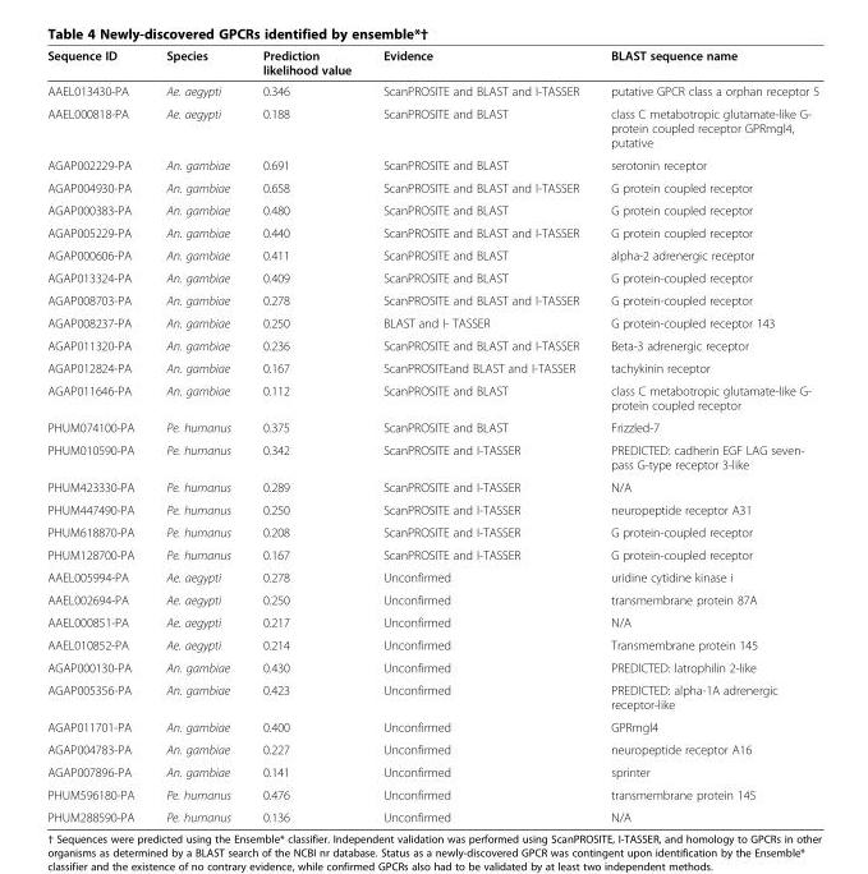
<table><thead><tr><td>Sequence ID</td><td>Species</td><td>Prediction likelihood value</td><td>Evidence</td><td>BLAST sequence name</td></tr></thead><tbody><tr><td>AAEL013430-PA</td><td>Ae. aegypti</td><td>0.346</td><td>ScanPROSITE and BLAST and I-TASSER</td><td>putative GPCR class a orphan receptor 5</td></tr><tr><td>AAEL000818-PA</td><td>Ae. aegypti</td><td>0.188</td><td>ScanPROSITE and BLAST</td><td>class C metabotropic glutamate-like G- protein coupled receptor GPRmgl4, putative</td></tr><tr><td>AGAP002229-PA</td><td>An. gambiae</td><td>0.691</td><td>ScanPROSITE and BLAST</td><td>serotonin receptor</td></tr><tr><td>AGAP004930-PA</td><td>An. gambiae</td><td>0.658</td><td>ScanPROSITE and BLAST and I-TASSER</td><td>G protein coupled receptor</td></tr><tr><td>AGAP000383-PA</td><td>An. gambiae</td><td>0.480</td><td>ScanPROSITE and BLAST</td><td>G protein coupled receptor</td></tr><tr><td>AGAP005229-PA</td><td>An. gambiae</td><td>0.440</td><td>ScanPROSITE and BLAST and I-TASSER</td><td>G protein coupled receptor</td></tr><tr><td>AGAP000606-PA</td><td>An. gambiae</td><td>0.411</td><td>ScanPROSITE and BLAST</td><td>alpha-2 adrenergic receptor</td></tr><tr><td>AGAP013324-PA</td><td>An. gambiae</td><td>0.409</td><td>ScanPROSITE and BLAST</td><td>G protein-coupled receptor</td></tr><tr><td>AGAP008703-PA</td><td>An. gambiae</td><td>0.278</td><td>ScanPROSITE and BLAST and I-TASSER</td><td>G protein-coupled receptor</td></tr><tr><td>AGAP008237-PA</td><td>An. gambiae</td><td>0.250</td><td>BLAST and I- TASSER</td><td>G protein-coupled receptor 143</td></tr><tr><td>AGAP011320-PA</td><td>An. gambiae</td><td>0.236</td><td>ScanPROSITE and BLAST and I-TASSER</td><td>Beta-3 adrenergic receptor</td></tr><tr><td>AGAP012824-PA</td><td>An. gambiae</td><td>0.167</td><td>ScanPROSITEand BLAST and I-TASSER</td><td>tachykinin receptor</td></tr><tr><td>AGAP011646-PA</td><td>An. gambiae</td><td>0.112</td><td>ScanPROSITE and BLAST</td><td>class C metabotropic glutamate-like G- protein coupled receptor</td></tr><tr><td>PHUM074100-PA</td><td>Pe. humanus</td><td>0.375</td><td>ScanPROSITE and BLAST</td><td>Frizzled-7</td></tr><tr><td>PHUM010590-PA</td><td>Pe. humanus</td><td>0.342</td><td>ScanPROSITE and I-TASSER</td><td>PREDICTED: cadherin EGF LAG seven- pass G-type receptor 3-like</td></tr><tr><td>PHUM423330-PA</td><td>Pe. humanus</td><td>0.289</td><td>ScanPROSITE and I-TASSER</td><td>N/A</td></tr><tr><td>PHUM447490-PA</td><td>Pe. humanus</td><td>0.250</td><td>ScanPROSITE and I-TASSER</td><td>neuropeptide receptor A31</td></tr><tr><td>PHUM618870-PA</td><td>Pe. humanus</td><td>0.208</td><td>ScanPROSITE and I-TASSER</td><td>G protein-coupled receptor</td></tr><tr><td>PHUM128700-PA</td><td>Pe. humanus</td><td>0.167</td><td>ScanPROSITE and I-TASSER</td><td>G protein-coupled receptor</td></tr><tr><td>AAEL005994-PA</td><td>Ae. aegypti</td><td>0.278</td><td>Unconfirmed</td><td>uridine cytidine kinase i</td></tr><tr><td>AAEL002694-PA</td><td>Ae. aegypti</td><td>0.250</td><td>Unconfirmed</td><td>transmembrane protein 87A</td></tr><tr><td>AAEL000851-PA</td><td>Ae. aegypti</td><td>0.217</td><td>Unconfirmed</td><td>N/A</td></tr><tr><td>AAEL010852-PA</td><td>Ae. aegypti</td><td>0.214</td><td>Unconfirmed</td><td>Transmembrane protein 145</td></tr><tr><td>AGAP000130-PA</td><td>An. gambiae</td><td>0.430</td><td>Unconfirmed</td><td>PREDICTED: latrophilin 2-like</td></tr><tr><td>AGAP005356-PA</td><td>An. gambiae</td><td>0.423</td><td>Unconfirmed</td><td>PREDICTED: alpha-1A adrenergic receptor-like</td></tr><tr><td>AGAP011701-PA</td><td>An. gambiae</td><td>0.400</td><td>Unconfirmed</td><td>GPRmgl4</td></tr><tr><td>AGAP004783-PA</td><td>An. gambiae</td><td>0.227</td><td>Unconfirmed</td><td>neuropeptide receptor A16</td></tr><tr><td>AGAP007896-PA</td><td>An. gambiae</td><td>0.141</td><td>Unconfirmed</td><td>sprinter</td></tr><tr><td>PHUM596180-PA</td><td>Pe. humanus</td><td>0.476</td><td>Unconfirmed</td><td>transmembrane protein 145</td></tr><tr><td>PHUM288590-PA</td><td>Pe. humanus</td><td>0.136</td><td>Unconfirmed</td><td>N/A</td></tr></tbody></table>